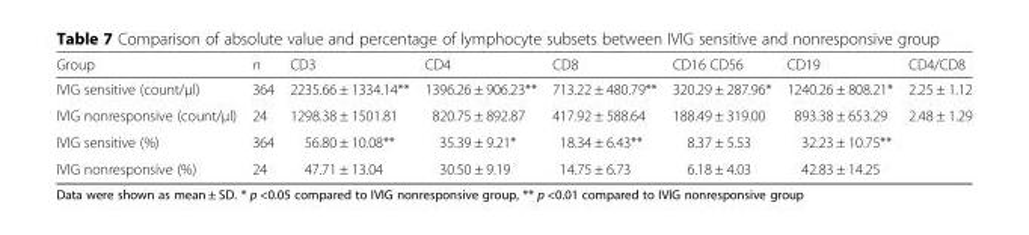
<table><thead><tr><td>Group</td><td>n</td><td>CD3</td><td>CD4</td><td>CD8</td><td>CD16 CD56</td><td>CD19</td><td>CD4/CD8</td></tr></thead><tbody><tr><td>IVIG sensitive (count/μl)</td><td>364</td><td>2235.66 ± 1334.14**</td><td>1396.26 ± 906.23**</td><td>713.22 ± 480.79**</td><td>320.29 ± 287.96*</td><td>1240.26 ± 808.21*</td><td>2.25 ± 1.12</td></tr><tr><td>IVIG nonresponsive (count/μl)</td><td>24</td><td>1298.38 ± 1501.81</td><td>820.75 ± 892.87</td><td>417.92 ± 588.64</td><td>188.49 ± 319.00</td><td>893.38 ± 653.29</td><td>2.48 ± 1.29</td></tr><tr><td>IVIG sensitive (%)</td><td>364</td><td>56.80 ± 10.08**</td><td>35.39 ± 9.21*</td><td>18.34 ± 6.43**</td><td>8.37 ± 5.53</td><td>32.23 ± 10.75**</td><td></td></tr><tr><td>IVIG nonresponsive (%)</td><td>24</td><td>47.71 ± 13.04</td><td>30.50 ± 9.19</td><td>14.75 ± 6.73</td><td>6.18 ± 4.03</td><td>42.83 ± 14.25</td><td></td></tr></tbody></table>